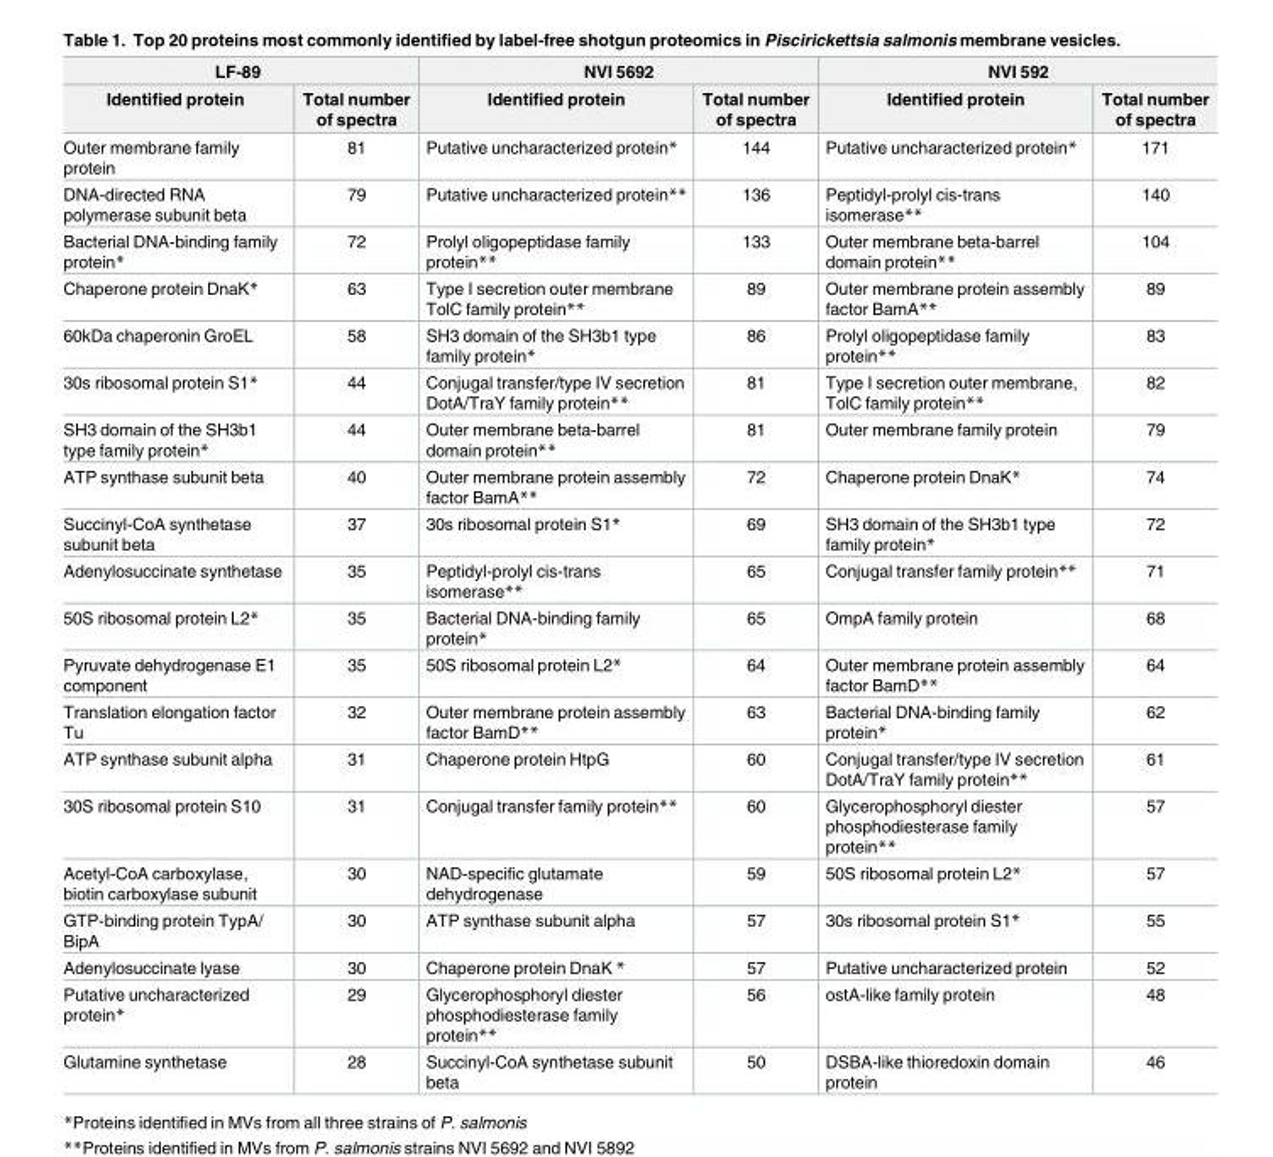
<table><thead><tr><td colspan="2">LF-89</td><td colspan="2">NVI 5692</td><td colspan="2">NVI 592</td></tr><tr><td>Identified protein</td><td>Total number of spectra</td><td>Identified protein</td><td>Total number of spectra</td><td>Identified protein</td><td>Total number of spectra</td></tr></thead><tbody><tr><td>Outer membrane family protein</td><td>81</td><td>Putative uncharacterized protein*</td><td>144</td><td>Putative uncharacterized protein*</td><td>171</td></tr><tr><td>DNA-directed RNA polymerase subunit beta</td><td>79</td><td>Putative uncharacterized protein**</td><td>136</td><td>Peptidyl-prolyl cis-trans isomerase**</td><td>140</td></tr><tr><td>Bacterial DNA-binding family protein*</td><td>72</td><td>Prolyl oligopeptidase family protein**</td><td>133</td><td>Outer membrane beta-barrel domain protein**</td><td>104</td></tr><tr><td>Chaperone protein DnaK*</td><td>63</td><td>Type I secretion outer membrane TolC family protein**</td><td>89</td><td>Outer membrane protein assembly factor BamA**</td><td>89</td></tr><tr><td>60kDa chaperonin GroEL</td><td>58</td><td>SH3 domain of the SH3b1 type family protein*</td><td>86</td><td>Prolyl oligopeptidase family protein**</td><td>83</td></tr><tr><td>30s ribosomal protein S1*</td><td>44</td><td>Conjugal transfer/type IV secretion DotA/TraY family protein**</td><td>81</td><td>Type I secretion outer membrane, TolC family protein**</td><td>82</td></tr><tr><td>SH3 domain of the SH3b1 type family protein*</td><td>44</td><td>Outer membrane beta-barrel domain protein**</td><td>81</td><td>Outer membrane family protein</td><td>79</td></tr><tr><td>ATP synthase subunit beta</td><td>40</td><td>Outer membrane protein assembly factor BamA**</td><td>72</td><td>Chaperone protein DnaK*</td><td>74</td></tr><tr><td>Succinyl-CoA synthetase subunit beta</td><td>37</td><td>30s ribosomal protein S1*</td><td>69</td><td>SH3 domain of the SH3b1 type family protein*</td><td>72</td></tr><tr><td>Adenylosuccinate synthetase</td><td>35</td><td>Peptidyl-prolyl cis-trans isomerase**</td><td>65</td><td>Conjugal transfer family protein**</td><td>71</td></tr><tr><td>50S ribosomal protein L2*</td><td>35</td><td>Bacterial DNA-binding family protein*</td><td>65</td><td>OmpA family protein</td><td>68</td></tr><tr><td>Pyruvate dehydrogenase E1 component</td><td>35</td><td>50S ribosomal protein L2*</td><td>64</td><td>Outer membrane protein assembly factor BamD**</td><td>64</td></tr><tr><td>Translation elongation factor Tu</td><td>32</td><td>Outer membrane protein assembly factor BamD**</td><td>63</td><td>Bacterial DNA-binding family protein*</td><td>62</td></tr><tr><td>ATP synthase subunit alpha</td><td>31</td><td>Chaperone protein HtpG</td><td>60</td><td>Conjugal transfer/type IV secretion DotA/TraY family protein**</td><td>61</td></tr><tr><td>30S ribosomal protein S10</td><td>31</td><td>Conjugal transfer family protein**</td><td>60</td><td>Glycerophosphoryl diester phosphodiesterase family protein**</td><td>57</td></tr><tr><td>Acetyl-CoA carboxylase, biotin carboxylase subunit</td><td>30</td><td>NAD-specific glutamate dehydrogenase</td><td>59</td><td>50S ribosomal protein L2*</td><td>57</td></tr><tr><td>GTP-binding protein TypA/ BipA</td><td>30</td><td>ATP synthase subunit alpha</td><td>57</td><td>30s ribosomal protein S1*</td><td>55</td></tr><tr><td>Adenylosuccinate lyase</td><td>30</td><td>Chaperone protein DnaK *</td><td>57</td><td>Putative uncharacterized protein</td><td>52</td></tr><tr><td>Putative uncharacterized protein*</td><td>29</td><td>Glycerophosphoryl diester phosphodiesterase family protein**</td><td>56</td><td>ostA-like family protein</td><td>48</td></tr><tr><td>Glutamine synthetase</td><td>28</td><td>Succinyl-CoA synthetase subunit beta</td><td>50</td><td>DSBA-like thioredoxin domain protein</td><td>46</td></tr></tbody></table>